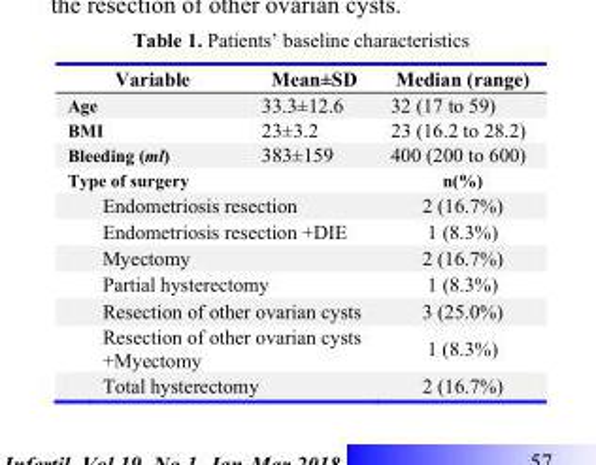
<table><thead><tr><td>Variable</td><td>Mean±SD</td><td>Median (range)</td></tr></thead><tbody><tr><td>Age</td><td>33.3±12.6</td><td>32 (17 to 59)</td></tr><tr><td>BMI</td><td>23±3.2</td><td>23 (16.2 to 28.2)</td></tr><tr><td>Bleeding (ml)</td><td>383±159</td><td>400 (200 to 600)</td></tr><tr><td colspan="2">Type of surgery</td><td>n(%)</td></tr><tr><td colspan="2">Endometriosis resection</td><td>2 (16.7%)</td></tr><tr><td colspan="2">Endometriosis resection +DIE</td><td>1 (8.3%)</td></tr><tr><td colspan="2">Myectomy</td><td>2 (16.7%)</td></tr><tr><td colspan="2">Partial hysterectomy</td><td>1 (8.3%)</td></tr><tr><td colspan="2">Resection of other ovarian cysts</td><td>3 (25.0%)</td></tr><tr><td colspan="2">Resection of other ovarian cysts +Myectomy</td><td>1 (8.3%)</td></tr><tr><td colspan="2">Total hysterectomy</td><td>2 (16.7%)</td></tr></tbody></table>